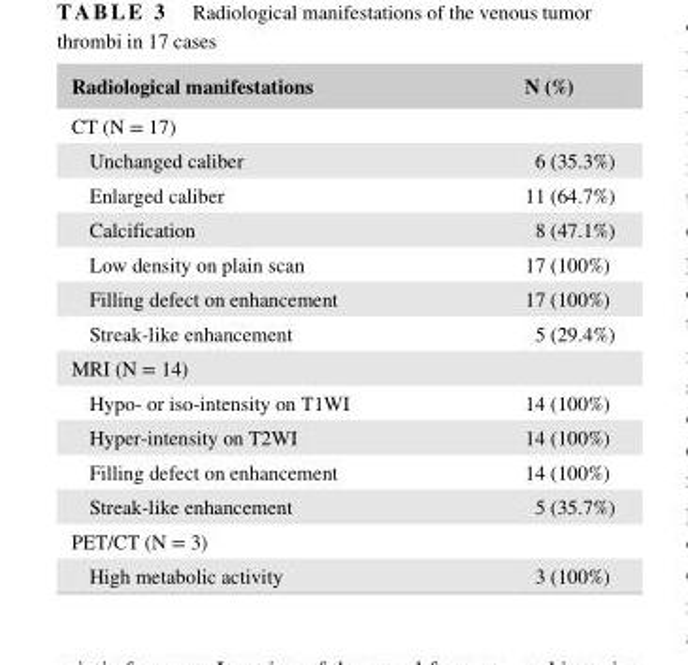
<table><thead><tr><td>Radiological manifestations</td><td>N (%)</td></tr></thead><tbody><tr><td colspan="2">CT (N = 17)</td></tr><tr><td>Unchanged caliber</td><td>6 (35.3%)</td></tr><tr><td>Enlarged caliber</td><td>11 (64.7%)</td></tr><tr><td>Calcification</td><td>8 (47.1%)</td></tr><tr><td>Low density on plain scan</td><td>17 (100%)</td></tr><tr><td>Filling defect on enhancement</td><td>17 (100%)</td></tr><tr><td>Streak- like enhancement</td><td>5 (29.4%)</td></tr><tr><td colspan="2">MRI (N = 14)</td></tr><tr><td>Hypo- or iso- intensity on T1WI</td><td>14 (100%)</td></tr><tr><td>Hyper- intensity on T2WI</td><td>14 (100%)</td></tr><tr><td>Filling defect on enhancement</td><td>14 (100%)</td></tr><tr><td>Streak- like enhancement</td><td>5 (35.7%)</td></tr><tr><td colspan="2">PET/CT (N = 3)</td></tr><tr><td>High metabolic activity</td><td>3 (100%)</td></tr></tbody></table>